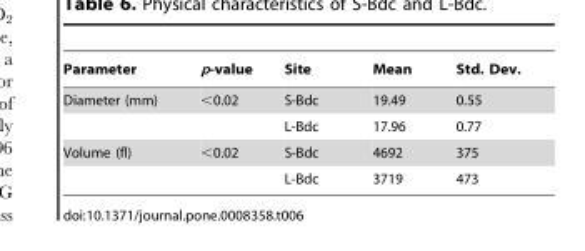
<table><thead><tr><td>Parameter</td><td>p-value</td><td>Site</td><td>Mean</td><td>Std. Dev.</td></tr></thead><tbody><tr><td rowspan="2">Diameter (mm)</td><td>&lt;0.02</td><td>S-Bdc</td><td>19.49</td><td>0.55</td></tr><tr><td></td><td>L-Bdc</td><td>17.96</td><td>0.77</td></tr><tr><td rowspan="2">Volume (fl)</td><td>&lt;0.02</td><td>S-Bdc</td><td>4692</td><td>375</td></tr><tr><td></td><td>L-Bdc</td><td>3719</td><td>473</td></tr></tbody></table>